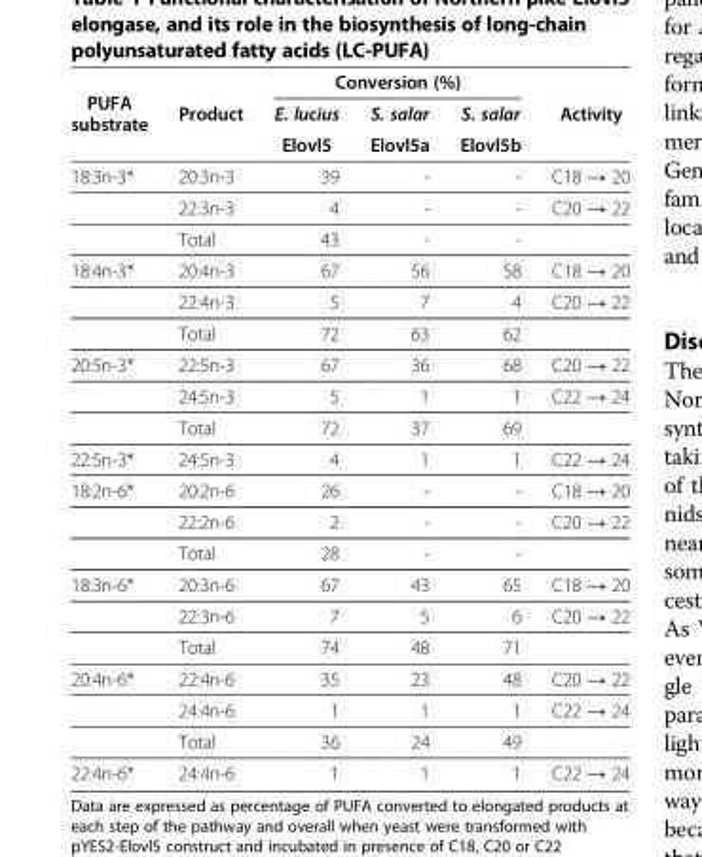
<table><thead><tr><td rowspan="3">PUFA substrate</td><td rowspan="3">Product</td><td colspan="3">Conversion (%)</td><td rowspan="3">Activity</td></tr><tr><td rowspan="2">E. lucius Elovl5</td><td rowspan="2">S. salar Elovl5a</td><td rowspan="2">S. salar Elovl5b</td></tr><tr></tr></thead><tbody><tr><td rowspan="3">18:3n-3*</td><td>20:3n-3</td><td>39</td><td>-</td><td>-</td><td>C18 → 20</td></tr><tr><td>22:3n-3</td><td>4</td><td>-</td><td>-</td><td>C20 → 22</td></tr><tr><td>Total</td><td>43</td><td>-</td><td>-</td><td></td></tr><tr><td rowspan="3">18:4n-3*</td><td>20:4n-3</td><td>67</td><td>56</td><td>58</td><td>C18 → 20</td></tr><tr><td>22:4n-3</td><td>5</td><td>7</td><td>4</td><td>C20 → 22</td></tr><tr><td>Total</td><td>72</td><td>63</td><td>62</td><td></td></tr><tr><td rowspan="3">20:5n-3*</td><td>22:5n-3</td><td>67</td><td>36</td><td>68</td><td>C20 → 22</td></tr><tr><td>24:5n-3</td><td>5</td><td>1</td><td>1</td><td>C22 → 24</td></tr><tr><td>Total</td><td>72</td><td>37</td><td>69</td><td></td></tr><tr><td>22:5n-3*</td><td>24:5n-3</td><td>4</td><td>1</td><td>1</td><td>C22 → 24</td></tr><tr><td rowspan="3">18:2n-6*</td><td>20:2n-6</td><td>26</td><td>-</td><td>-</td><td>C18 → 20</td></tr><tr><td>22:2n-6</td><td>2</td><td>-</td><td>-</td><td>C20 → 22</td></tr><tr><td>Total</td><td>28</td><td>-</td><td>-</td><td></td></tr><tr><td rowspan="3">18:3n-6*</td><td>20:3n-6</td><td>67</td><td>43</td><td>65</td><td>C18 → 20</td></tr><tr><td>22:3n-6</td><td>7</td><td>5</td><td>6</td><td>C20 → 22</td></tr><tr><td>Total</td><td>74</td><td>48</td><td>71</td><td></td></tr><tr><td rowspan="3">20:4n-6*</td><td>22:4n-6</td><td>35</td><td>23</td><td>48</td><td>C20 → 22</td></tr><tr><td>24:4n-6</td><td>1</td><td>1</td><td>1</td><td>C22 → 24</td></tr><tr><td>Total</td><td>36</td><td>24</td><td>49</td><td></td></tr><tr><td>22:4n-6*</td><td>24:4n-6</td><td>1</td><td>1</td><td>1</td><td>C22 → 24</td></tr></tbody></table>